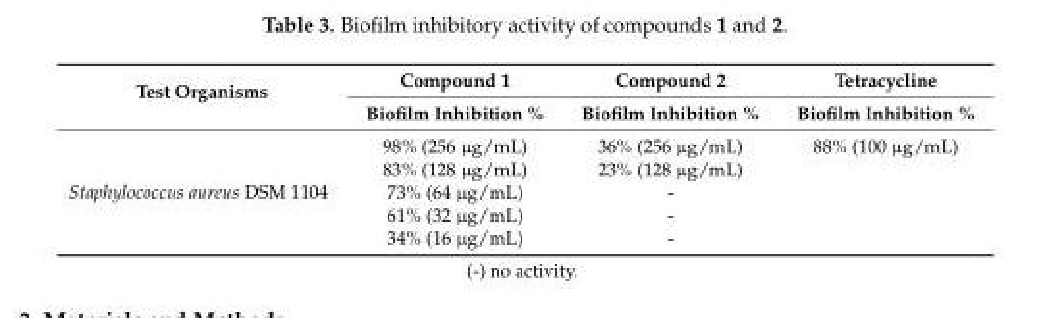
<table><thead><tr><td rowspan="2">Test Organisms</td><td rowspan="2">Compound 1 Biofilm Inhibition %</td><td rowspan="2">Compound 2 Biofilm Inhibition %</td><td rowspan="2">Tetracycline Biofilm Inhibition %</td></tr><tr></tr></thead><tbody><tr><td rowspan="5">Staphylococcus aureus DSM 1104</td><td>98% (256 µg/mL)</td><td>36% (256 µg/mL)</td><td>88% (100 µg/mL)</td></tr><tr><td>83% (128 µg/mL)</td><td>23% (128 µg/mL)</td><td></td></tr><tr><td>73% (64 µg/mL)</td><td>-</td><td></td></tr><tr><td>61% (32 µg/mL)</td><td>-</td><td></td></tr><tr><td>34% (16 µg/mL)</td><td>-</td><td></td></tr></tbody></table>